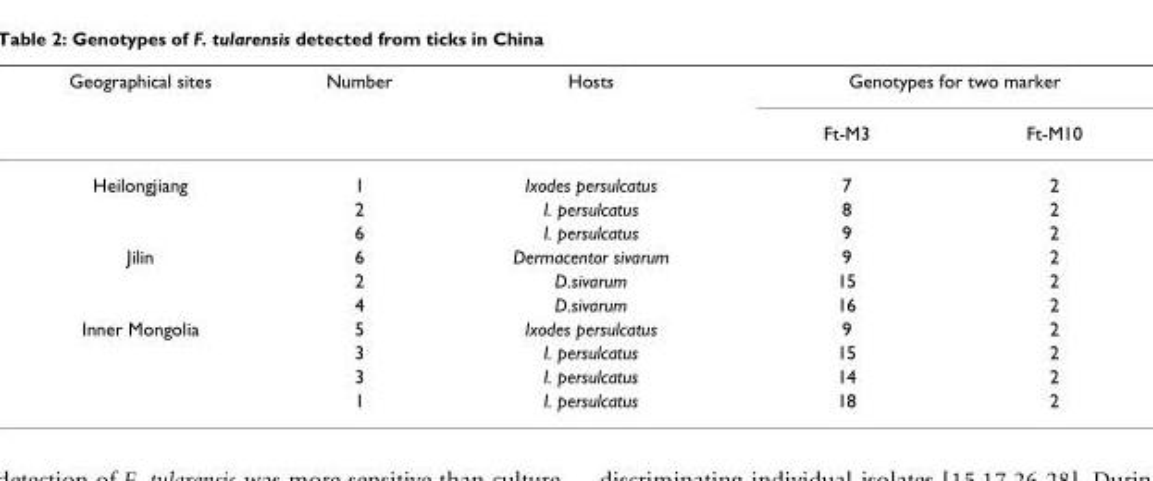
<table><thead><tr><td rowspan="2">Geographical sites</td><td rowspan="2">Number</td><td rowspan="2">Hosts</td><td colspan="2">Genotypes for two marker</td></tr><tr><td>Ft-M3</td><td>Ft-M10</td></tr></thead><tbody><tr><td rowspan="3">Heilongjiang</td><td>1</td><td>Ixodes persulcatus</td><td>7</td><td>2</td></tr><tr><td>2</td><td>I. persulcatus</td><td>8</td><td>2</td></tr><tr><td>6</td><td>I. persulcatus</td><td>9</td><td>2</td></tr><tr><td rowspan="3">Jilin</td><td>6</td><td>Dermacentor sivarum</td><td>9</td><td>2</td></tr><tr><td>2</td><td>D.sivarum</td><td>15</td><td>2</td></tr><tr><td>4</td><td>D.sivarum</td><td>16</td><td>2</td></tr><tr><td rowspan="4">Inner Mongolia</td><td>5</td><td>Ixodes persulcatus</td><td>9</td><td>2</td></tr><tr><td>3</td><td>I. persulcatus</td><td>15</td><td>2</td></tr><tr><td>3</td><td>I. persulcatus</td><td>14</td><td>2</td></tr><tr><td>1</td><td>I. persulcatus</td><td>18</td><td>2</td></tr></tbody></table>